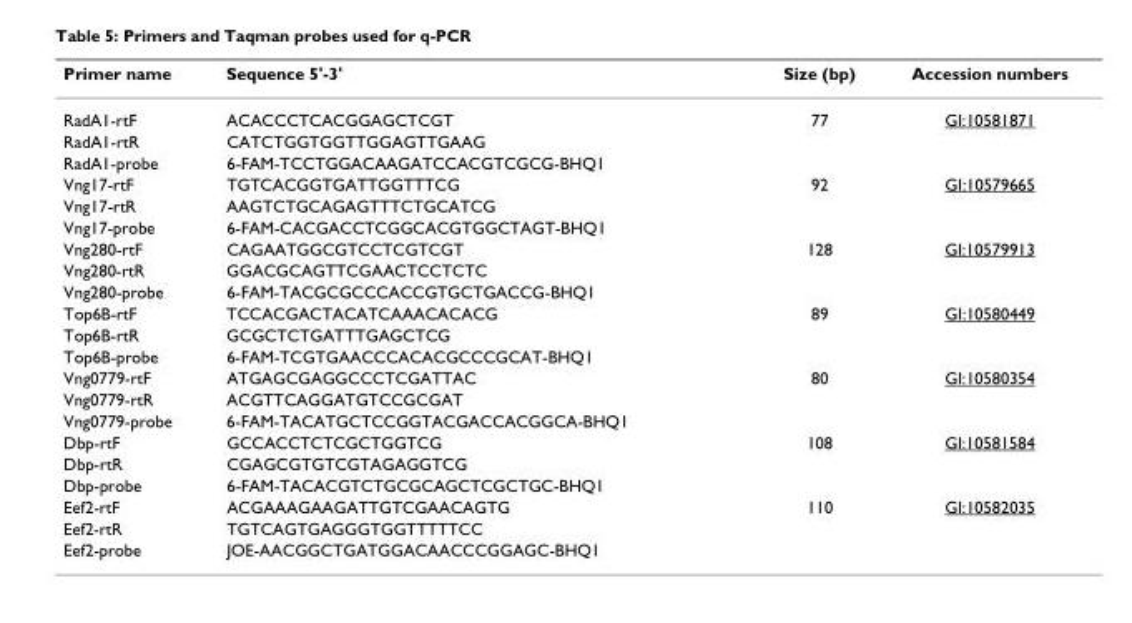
<table><thead><tr><td>Primer name</td><td>Sequence 5&#x27;-3&#x27;</td><td>Size (bp)</td><td>Accession numbers</td></tr></thead><tbody><tr><td>RadA1-rtF</td><td>ACACCCTCACGGAGCTCGT</td><td>77</td><td>GI:10581871</td></tr><tr><td>RadA1-rtR</td><td>CATCTGGTGGTTGGAGTTGAAG</td><td></td><td></td></tr><tr><td>RadA1-probe</td><td>6-FAM-TCCTGGACAAGATCCACGTCGCG-BHQ1</td><td></td><td></td></tr><tr><td>Vng17-rtF</td><td>TGTCACGGTGATTGGTTTCG</td><td>92</td><td>GI:10579665</td></tr><tr><td>Vng17-rtR</td><td>AAGTCTGCAGAGTTTCTGCATCG</td><td></td><td></td></tr><tr><td>Vng17-probe</td><td>6-FAM-CACGACCTCGGCACGTGGCTAGT-BHQ1</td><td></td><td></td></tr><tr><td>Vng280-rtF</td><td>CAGAATGGCGTCCTCGTCGT</td><td>128</td><td>GI:10579913</td></tr><tr><td>Vng280-rtR</td><td>GGACGCAGTTCGAACTCCTCTC</td><td></td><td></td></tr><tr><td>Vng280-probe</td><td>6-FAM-TACGCGCCCACCGTGCTGACCG-BHQ1</td><td></td><td></td></tr><tr><td>Top6B-rtF</td><td>TCCACGACTACATCAAACACACG</td><td>89</td><td>GI:10580449</td></tr><tr><td>Top6B-rtR</td><td>GCGCTCTGATTTGAGCTCG</td><td></td><td></td></tr><tr><td>Top6B-probe</td><td>6-FAM-TCGTGAACCCACACGCCCGCAT-BHQ1</td><td></td><td></td></tr><tr><td>Vng0779-rtF</td><td>ATGAGCGAGGCCCTCGATTAC</td><td>80</td><td>GI:10580354</td></tr><tr><td>Vng0779-rtR</td><td>ACGTTCAGGATGTCCGCGAT</td><td></td><td></td></tr><tr><td>Vng0779-probe</td><td>6-FAM-TACATGCTCCGGTACGACCACGGCA-BHQ1</td><td></td><td></td></tr><tr><td>Dbp-rtF</td><td>GCCACCTCTCGCTGGTCG</td><td>108</td><td>GI:10581584</td></tr><tr><td>Dbp-rtR</td><td>CGAGCGTGTCGTAGAGGTCG</td><td></td><td></td></tr><tr><td>Dbp-probe</td><td>6-FAM-TACACGTCTGCGCAGCTCGCTGC-BHQ1</td><td></td><td></td></tr><tr><td>Eef2-rtF</td><td>ACGAAAGAAGATTGTCGAACAGTG</td><td>110</td><td>GI:10582035</td></tr><tr><td>Eef2-rtR</td><td>TGTCAGTGAGGGTGGTTTTTCC</td><td></td><td></td></tr><tr><td>Eef2-probe</td><td>JOE-AACGGCTGATGGACAACCCGGAGC-BHQ1</td><td></td><td></td></tr></tbody></table>